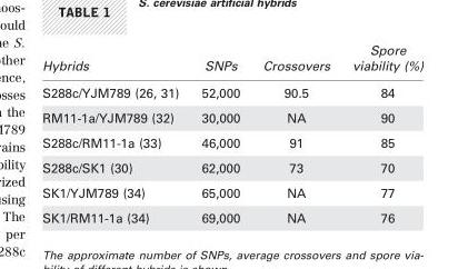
<table><thead><tr><td>Hybrids</td><td>SNPs</td><td>Crossovers</td><td>Spore viability (%)</td></tr></thead><tbody><tr><td>S288c/YJM789 (26, 31)</td><td>52,000</td><td>90.5</td><td>84</td></tr><tr><td>RM11-1a/YJM789 (32)</td><td>30,000</td><td>NA</td><td>90</td></tr><tr><td>S288c/RM11-1a (33)</td><td>46,000</td><td>91</td><td>85</td></tr><tr><td>S288c/SK1 (30)</td><td>62,000</td><td>73</td><td>70</td></tr><tr><td>SK1/YJM789 (34)</td><td>65,000</td><td>NA</td><td>77</td></tr><tr><td>SK1/RM11-1a (34)</td><td>69,000</td><td>NA</td><td>76</td></tr></tbody></table>